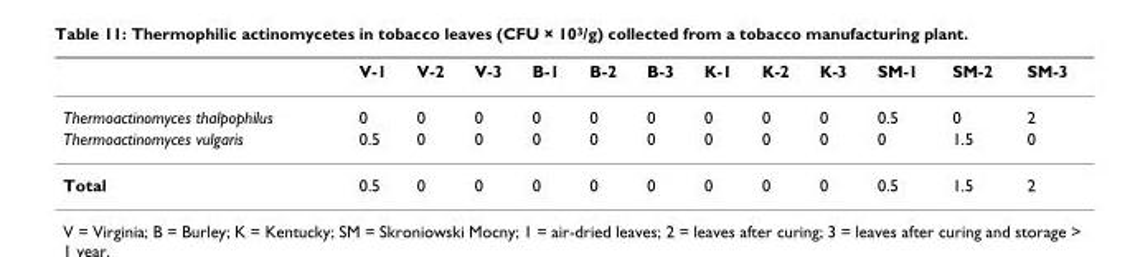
<table><thead><tr><td></td><td>V-1</td><td>V-2</td><td>V-3</td><td>B-1</td><td>B-2</td><td>B-3</td><td>K-1</td><td>K-2</td><td>K-3</td><td>SM-1</td><td>SM-2</td><td>SM-3</td></tr></thead><tbody><tr><td>Thermoactinomyces thalpophilus</td><td>0</td><td>0</td><td>0</td><td>0</td><td>0</td><td>0</td><td>0</td><td>0</td><td>0</td><td>0.5</td><td>0</td><td>2</td></tr><tr><td>Thermoactinomyces vulgaris</td><td>0.5</td><td>0</td><td>0</td><td>0</td><td>0</td><td>0</td><td>0</td><td>0</td><td>0</td><td>0</td><td>1.5</td><td>0</td></tr><tr><td>Total</td><td>0.5</td><td>0</td><td>0</td><td>0</td><td>0</td><td>0</td><td>0</td><td>0</td><td>0</td><td>0.5</td><td>1.5</td><td>2</td></tr></tbody></table>